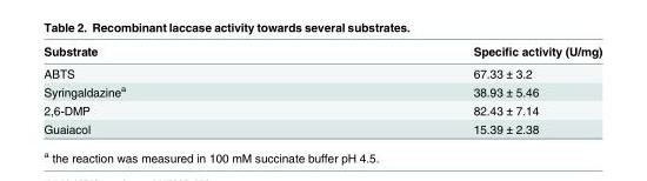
<table><thead><tr><td>Substrate</td><td>Specific activity (U/mg)</td></tr></thead><tbody><tr><td>ABTS</td><td>67.33 ± 3.2</td></tr><tr><td>Syringaldazine<sup>a</sup></td><td>38.93 ± 5.46</td></tr><tr><td>2,6-DMP</td><td>82.43 ± 7.14</td></tr><tr><td>Guaiacol</td><td>15.39 ± 2.38</td></tr></tbody></table>